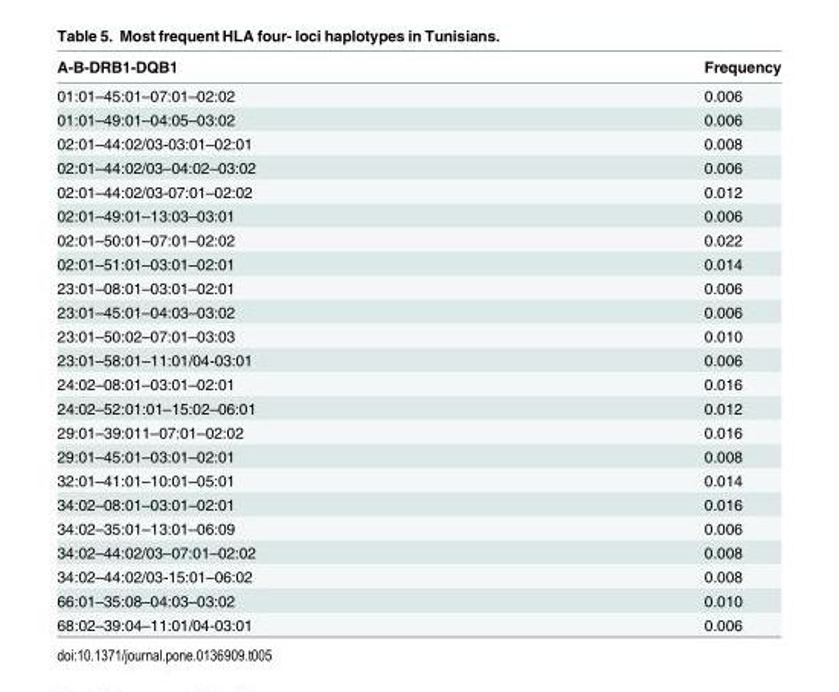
<table><thead><tr><td>A-B-DRB1-DQB1</td><td>Frequency</td></tr></thead><tbody><tr><td>01:01–45:01–07:01–02:02</td><td>0.006</td></tr><tr><td>01:01–49:01–04:05–03:02</td><td>0.006</td></tr><tr><td>02:01–44:02/03-03:01–02:01</td><td>0.008</td></tr><tr><td>02:01–44:02/03–04:02–03:02</td><td>0.006</td></tr><tr><td>02:01–44:02/03-07:01–02:02</td><td>0.012</td></tr><tr><td>02:01–49:01–13:03–03:01</td><td>0.006</td></tr><tr><td>02:01–50:01–07:01–02:02</td><td>0.022</td></tr><tr><td>02:01–51:01–03:01–02:01</td><td>0.014</td></tr><tr><td>23:01–08:01–03:01–02:01</td><td>0.006</td></tr><tr><td>23:01–45:01–04:03–03:02</td><td>0.006</td></tr><tr><td>23:01–50:02–07:01–03:03</td><td>0.010</td></tr><tr><td>23:01–58:01–11:01/04-03:01</td><td>0.006</td></tr><tr><td>24:02–08:01–03:01–02:01</td><td>0.016</td></tr><tr><td>24:02–52:01:01–15:02–06:01</td><td>0.012</td></tr><tr><td>29:01–39:011–07:01–02:02</td><td>0.016</td></tr><tr><td>29:01–45:01–03:01–02:01</td><td>0.008</td></tr><tr><td>32:01–41:01–10:01–05:01</td><td>0.014</td></tr><tr><td>34:02–08:01–03:01–02:01</td><td>0.016</td></tr><tr><td>34:02–35:01–13:01–06:09</td><td>0.006</td></tr><tr><td>34:02–44:02/03–07:01–02:02</td><td>0.008</td></tr><tr><td>34:02–44:02/03-15:01–06:02</td><td>0.008</td></tr><tr><td>66:01–35:08–04:03–03:02</td><td>0.010</td></tr><tr><td>68:02–39:04–11:01/04-03:01</td><td>0.006</td></tr></tbody></table>